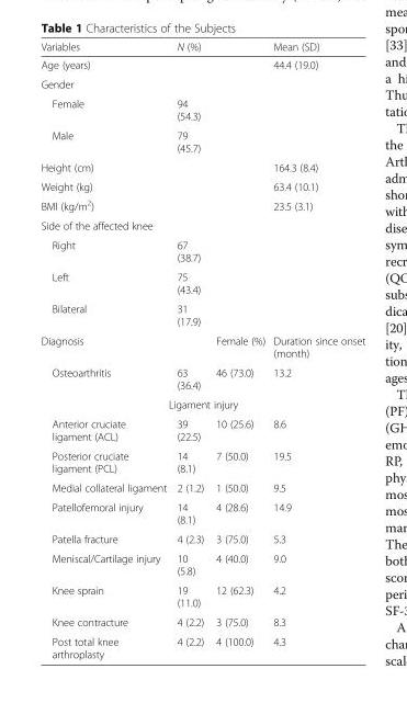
<table><thead><tr><td>Variables</td><td>N (%)</td><td></td><td>Mean (SD)</td></tr></thead><tbody><tr><td>Age (years)</td><td></td><td></td><td>44.4 (19.0)</td></tr><tr><td colspan="4">Gender</td></tr><tr><td>Female</td><td>94 (54.3)</td><td></td><td></td></tr><tr><td>Male</td><td>79 (45.7)</td><td></td><td></td></tr><tr><td>Height (cm)</td><td></td><td></td><td>164.3 (8.4)</td></tr><tr><td>Weight (kg)</td><td></td><td></td><td>63.4 (10.1)</td></tr><tr><td>BMI (kg/m<sup>2</sup>)</td><td></td><td></td><td>23.5 (3.1)</td></tr><tr><td colspan="4">Side of the affected knee</td></tr><tr><td>Right</td><td>67 (38.7)</td><td></td><td></td></tr><tr><td>Left</td><td>75 (43.4)</td><td></td><td></td></tr><tr><td>Bilateral</td><td>31 (17.9)</td><td></td><td></td></tr><tr><td>Diagnosis</td><td></td><td>Female (%)</td><td>Duration since onset (month)</td></tr><tr><td>Osteoarthritis</td><td>63 (36.4)</td><td>46 (73.0)</td><td>13.2</td></tr><tr><td colspan="4">Ligament injury</td></tr><tr><td>Anterior cruciate ligament (ACL)</td><td>39 (22.5)</td><td>10 (25.6)</td><td>8.6</td></tr><tr><td>Posterior cruciate ligament (PCL)</td><td>14 (8.1)</td><td>7 (50.0)</td><td>19.5</td></tr><tr><td>Medial collateral ligament</td><td>2 (1.2)</td><td>1 (50.0)</td><td>9.5</td></tr><tr><td>Patellofemoral injury</td><td>14 (8.1)</td><td>4 (28.6)</td><td>14.9</td></tr><tr><td>Patella fracture</td><td>4 (2.3)</td><td>3 (75.0)</td><td>5.3</td></tr><tr><td>Meniscal/Cartilage injury</td><td>10 (5.8)</td><td>4 (40.0)</td><td>9.0</td></tr><tr><td>Knee sprain</td><td>19 (11.0)</td><td>12 (62.3)</td><td>4.2</td></tr><tr><td>Knee contracture</td><td>4 (2.2)</td><td>3 (75.0)</td><td>8.3</td></tr><tr><td>Post total knee arthroplasty</td><td>4 (2.2)</td><td>4 (100.0)</td><td>4.3</td></tr></tbody></table>